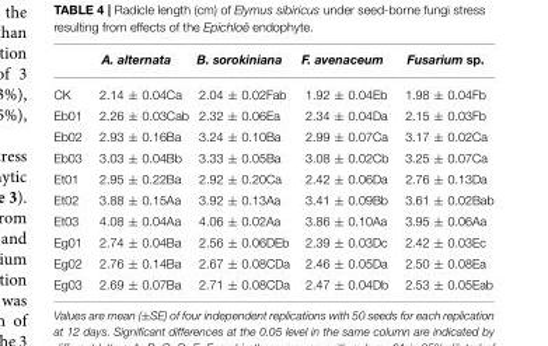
<table><thead><tr><td></td><td>A. alternata</td><td>B. sorokiniana</td><td>F. avenaceum</td><td>Fusarium sp.</td></tr></thead><tbody><tr><td>CK</td><td>2.14 ± 0.04Ca</td><td>2.04 ± 0.02Fab</td><td>1.92 ± 0.04Eb</td><td>1.98 ± 0.04Fb</td></tr><tr><td>Eb01</td><td>2.26 ± 0.03Cab</td><td>2.32 ± 0.06Ea</td><td>2.34 ± 0.04Da</td><td>2.15 ± 0.03Fb</td></tr><tr><td>Eb02</td><td>2.93 ± 0.16Ba</td><td>3.24 ± 0.10Ba</td><td>2.99 ± 0.07Ca</td><td>3.17 ± 0.02Ca</td></tr><tr><td>Eb03</td><td>3.03 ± 0.04Bb</td><td>3.33 ± 0.05Ba</td><td>3.08 ± 0.02Cb</td><td>3.25 ± 0.07Ca</td></tr><tr><td>Et01</td><td>2.95 ± 0.22Ba</td><td>2.92 ± 0.20Ca</td><td>2.42 ± 0.06Da</td><td>2.76 ± 0.13Da</td></tr><tr><td>Et02</td><td>3.88 ± 0.15Aa</td><td>3.92 ± 0.13Aa</td><td>3.41 ± 0.09Bb</td><td>3.61 ± 0.02Bab</td></tr><tr><td>Et03</td><td>4.08 ± 0.04Aa</td><td>4.06 ± 0.02Aa</td><td>3.86 ± 0.10Aa</td><td>3.95 ± 0.06Aa</td></tr><tr><td>Eg01</td><td>2.74 ± 0.04Ba</td><td>2.56 ± 0.06DEb</td><td>2.39 ± 0.03Dc</td><td>2.42 ± 0.03Ec</td></tr><tr><td>Eg02</td><td>2.76 ± 0.14Ba</td><td>2.67 ± 0.08CDa</td><td>2.46 ± 0.05Da</td><td>2.50 ± 0.08Ea</td></tr><tr><td>Eg03</td><td>2.69 ± 0.07Ba</td><td>2.71 ± 0.08CDa</td><td>2.47 ± 0.04Db</td><td>2.53 ± 0.05Eab</td></tr></tbody></table>